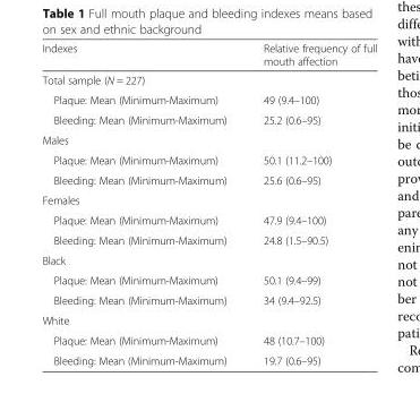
<table><thead><tr><td>Indexes</td><td>Relative frequency of full mouth affection</td></tr></thead><tbody><tr><td colspan="2">Total sample (N = 227)</td></tr><tr><td>Plaque: Mean (Minimum-Maximum)</td><td>49 (9.4–100)</td></tr><tr><td>Bleeding: Mean (Minimum-Maximum)</td><td>25.2 (0.6–95)</td></tr><tr><td colspan="2">Males</td></tr><tr><td>Plaque: Mean (Minimum-Maximum)</td><td>50.1 (11.2–100)</td></tr><tr><td>Bleeding: Mean (Minimum-Maximum)</td><td>25.6 (0.6–95)</td></tr><tr><td colspan="2">Females</td></tr><tr><td>Plaque: Mean (Minimum-Maximum)</td><td>47.9 (9.4–100)</td></tr><tr><td>Bleeding: Mean (Minimum-Maximum)</td><td>24.8 (1.5–90.5)</td></tr><tr><td colspan="2">Black</td></tr><tr><td>Plaque: Mean (Minimum-Maximum)</td><td>50.1 (9.4–99)</td></tr><tr><td>Bleeding: Mean (Minimum-Maximum)</td><td>34 (9.4–92.5)</td></tr><tr><td colspan="2">White</td></tr><tr><td>Plaque: Mean (Minimum-Maximum)</td><td>48 (10.7–100)</td></tr><tr><td>Bleeding: Mean (Minimum-Maximum)</td><td>19.7 (0.6–95)</td></tr></tbody></table>